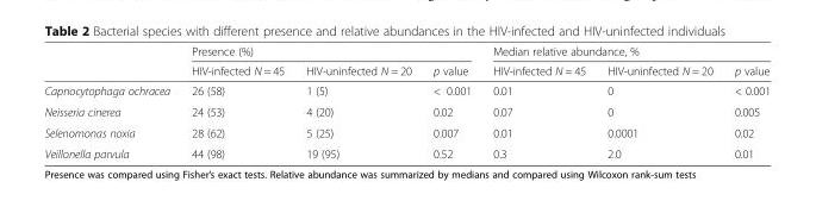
<table><thead><tr><td rowspan="2"></td><td colspan="3">Presence (%)</td><td colspan="3">Median relative abundance, %</td></tr><tr><td>HIV-infected N = 45</td><td>HIV-uninfected N = 20</td><td>p value</td><td>HIV-infected N = 45</td><td>HIV-uninfected N = 20</td><td>p value</td></tr></thead><tbody><tr><td>Capnocytophaga ochracea</td><td>26 (58)</td><td>1 (5)</td><td>&lt; 0.001</td><td>0.01</td><td>0</td><td>&lt; 0.001</td></tr><tr><td>Neisseria cinerea</td><td>24 (53)</td><td>4 (20)</td><td>0.02</td><td>0.07</td><td>0</td><td>0.005</td></tr><tr><td>Selenomonas noxia</td><td>28 (62)</td><td>5 (25)</td><td>0.007</td><td>0.01</td><td>0.0001</td><td>0.02</td></tr><tr><td>Veillonella parvula</td><td>44 (98)</td><td>19 (95)</td><td>0.52</td><td>0.3</td><td>2.0</td><td>0.01</td></tr></tbody></table>